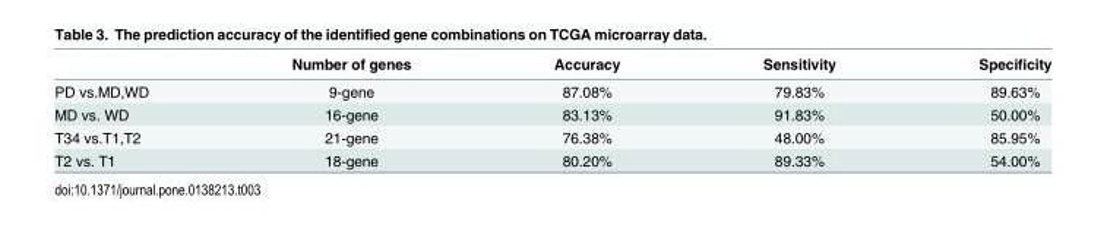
<table><thead><tr><td></td><td>Number of genes</td><td>Accuracy</td><td>Sensitivity</td><td>Specificity</td></tr></thead><tbody><tr><td>PD vs.MD,WD</td><td>9-gene</td><td>87.08%</td><td>79.83%</td><td>89.63%</td></tr><tr><td>MD vs. WD</td><td>16-gene</td><td>83.13%</td><td>91.83%</td><td>50.00%</td></tr><tr><td>T34 vs.T1,T2</td><td>21-gene</td><td>76.38%</td><td>48.00%</td><td>85.95%</td></tr><tr><td>T2 vs. T1</td><td>18-gene</td><td>80.20%</td><td>89.33%</td><td>54.00%</td></tr></tbody></table>